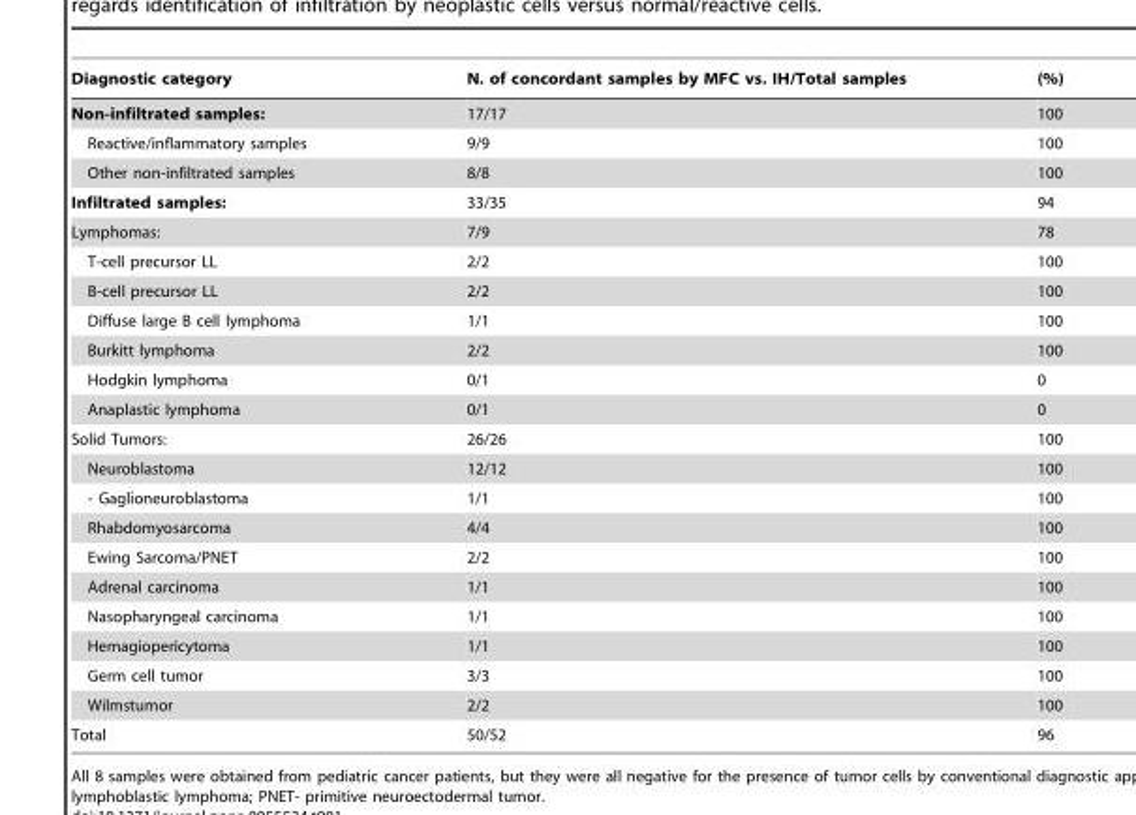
<table><thead><tr><td>Diagnostic category</td><td>N. of concordant samples by MFC vs. IH/Total samples</td><td>(%)</td></tr></thead><tbody><tr><td>Non-infiltrated samples:</td><td>17/17</td><td>100</td></tr><tr><td>Reactive/inflammatory samples</td><td>9/9</td><td>100</td></tr><tr><td>Other non-infiltrated samples</td><td>8/8</td><td>100</td></tr><tr><td>Infiltrated samples:</td><td>33/35</td><td>94</td></tr><tr><td>Lymphomas:</td><td>7/9</td><td>78</td></tr><tr><td>T-cell precursor LL</td><td>2/2</td><td>100</td></tr><tr><td>B-cell precursor LL</td><td>2/2</td><td>100</td></tr><tr><td>Diffuse large B cell lymphoma</td><td>1/1</td><td>100</td></tr><tr><td>Burkitt lymphoma</td><td>2/2</td><td>100</td></tr><tr><td>Hodgkin lymphoma</td><td>0/1</td><td>0</td></tr><tr><td>Anaplastic lymphoma</td><td>0/1</td><td>0</td></tr><tr><td>Solid Tumors:</td><td>26/26</td><td>100</td></tr><tr><td>Neuroblastoma</td><td>12/12</td><td>100</td></tr><tr><td>- Gaglioneuroblastoma</td><td>1/1</td><td>100</td></tr><tr><td>Rhabdomyosarcoma</td><td>4/4</td><td>100</td></tr><tr><td>Ewing Sarcoma/PNET</td><td>2/2</td><td>100</td></tr><tr><td>Adrenal carcinoma</td><td>1/1</td><td>100</td></tr><tr><td>Nasopharyngeal carcinoma</td><td>1/1</td><td>100</td></tr><tr><td>Hemagiopericytoma</td><td>1/1</td><td>100</td></tr><tr><td>Germ cell tumor</td><td>3/3</td><td>100</td></tr><tr><td>Wilmstumor</td><td>2/2</td><td>100</td></tr><tr><td>Total</td><td>50/52</td><td>96</td></tr></tbody></table>